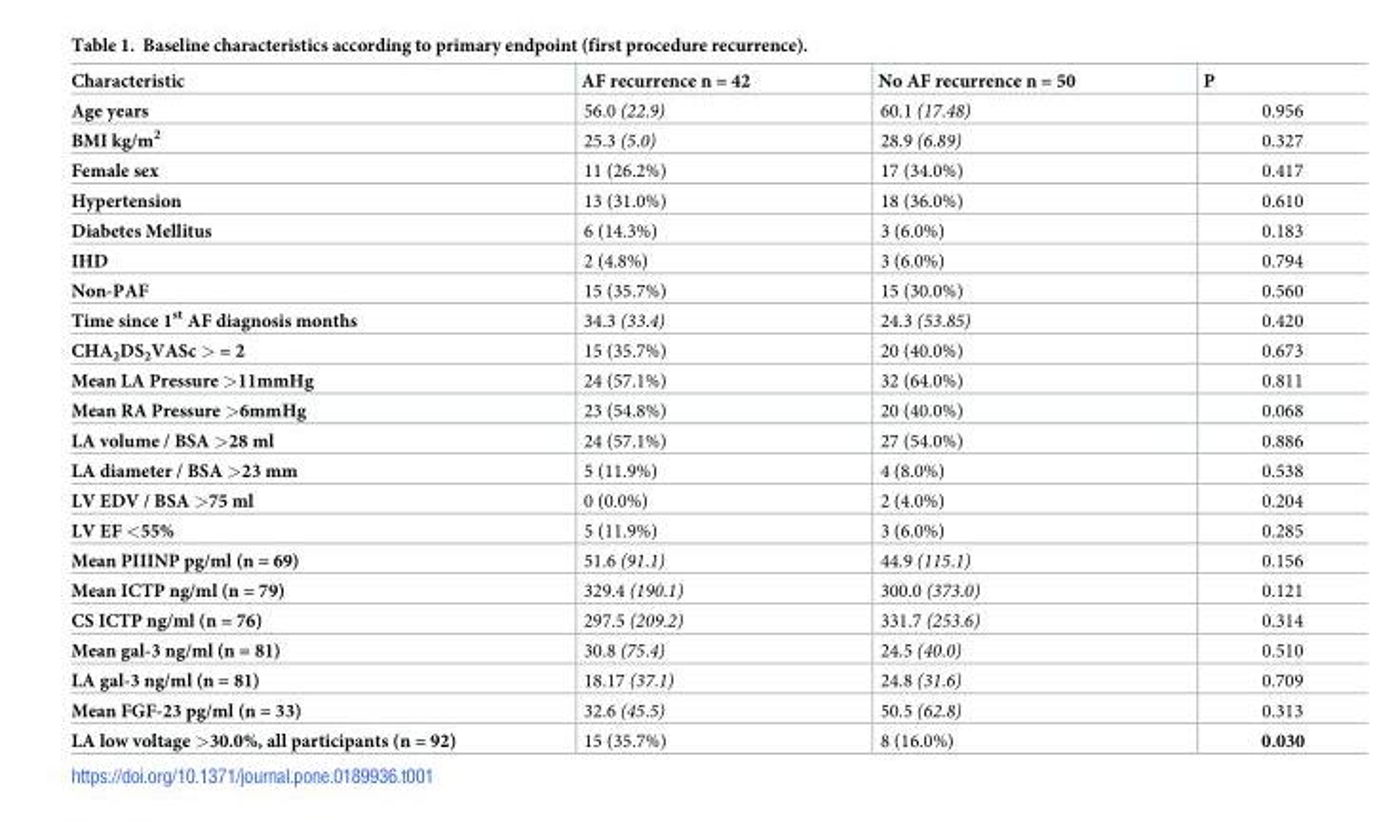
<table><thead><tr><td>Characteristic</td><td>AF recurrence n = 42</td><td>No AF recurrence n = 50</td><td>P</td></tr></thead><tbody><tr><td>Age years</td><td>56.0 (22.9)</td><td>60.1 (17.48)</td><td>0.956</td></tr><tr><td>BMI kg/m<sup>2</sup></td><td>25.3 (5.0)</td><td>28.9 (6.89)</td><td>0.327</td></tr><tr><td>Female sex</td><td>11 (26.2%)</td><td>17 (34.0%)</td><td>0.417</td></tr><tr><td>Hypertension</td><td>13 (31.0%)</td><td>18 (36.0%)</td><td>0.610</td></tr><tr><td>Diabetes Mellitus</td><td>6 (14.3%)</td><td>3 (6.0%)</td><td>0.183</td></tr><tr><td>IHD</td><td>2 (4.8%)</td><td>3 (6.0%)</td><td>0.794</td></tr><tr><td>Non-PAF</td><td>15 (35.7%)</td><td>15 (30.0%)</td><td>0.560</td></tr><tr><td>Time since 1<sup>st</sup> AF diagnosis months</td><td>34.3 (33.4)</td><td>24.3 (53.85)</td><td>0.420</td></tr><tr><td>CHA<sub>2</sub>DS<sub>2</sub>VASc &gt; = 2</td><td>15 (35.7%)</td><td>20 (40.0%)</td><td>0.673</td></tr><tr><td>Mean LA Pressure &gt;11mmHg</td><td>24 (57.1%)</td><td>32 (64.0%)</td><td>0.811</td></tr><tr><td>Mean RA Pressure &gt;6mmHg</td><td>23 (54.8%)</td><td>20 (40.0%)</td><td>0.068</td></tr><tr><td>LA volume / BSA &gt;28 ml</td><td>24 (57.1%)</td><td>27 (54.0%)</td><td>0.886</td></tr><tr><td>LA diameter / BSA &gt;23 mm</td><td>5 (11.9%)</td><td>4 (8.0%)</td><td>0.538</td></tr><tr><td>LV EDV / BSA &gt;75 ml</td><td>0 (0.0%)</td><td>2 (4.0%)</td><td>0.204</td></tr><tr><td>LV EF &lt;55%</td><td>5 (11.9%)</td><td>3 (6.0%)</td><td>0.285</td></tr><tr><td>Mean PIIINP pg/ml (n = 69)</td><td>51.6 (91.1)</td><td>44.9 (115.1)</td><td>0.156</td></tr><tr><td>Mean ICTP ng/ml (n = 79)</td><td>329.4 (190.1)</td><td>300.0 (373.0)</td><td>0.121</td></tr><tr><td>CS ICTP ng/ml (n = 76)</td><td>297.5 (209.2)</td><td>331.7 (253.6)</td><td>0.314</td></tr><tr><td>Mean gal-3 ng/ml (n = 81)</td><td>30.8 (75.4)</td><td>24.5 (40.0)</td><td>0.510</td></tr><tr><td>LA gal-3 ng/ml (n = 81)</td><td>18.17 (37.1)</td><td>24.8 (31.6)</td><td>0.709</td></tr><tr><td>Mean FGF-23 pg/ml (n = 33)</td><td>32.6 (45.5)</td><td>50.5 (62.8)</td><td>0.313</td></tr><tr><td>LA low voltage &gt;30.0%, all participants (n = 92)</td><td>15 (35.7%)</td><td>8 (16.0%)</td><td>0.030</td></tr></tbody></table>